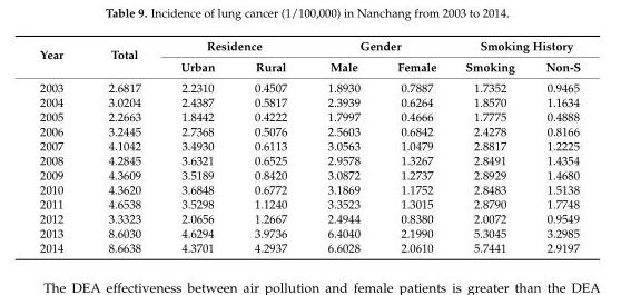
<table><thead><tr><td rowspan="2">Year</td><td rowspan="2">Total</td><td colspan="2">Residence</td><td colspan="2">Gender</td><td colspan="2">Smoking History</td></tr><tr><td>Urban</td><td>Rural</td><td>Male</td><td>Female</td><td>Smoking</td><td>Non-S</td></tr></thead><tbody><tr><td>2003</td><td>2.6817</td><td>2.2310</td><td>0.4507</td><td>1.8930</td><td>0.7887</td><td>1.7352</td><td>0.9465</td></tr><tr><td>2004</td><td>3.0204</td><td>2.4387</td><td>0.5817</td><td>2.3939</td><td>0.6264</td><td>1.8570</td><td>1.1634</td></tr><tr><td>2005</td><td>2.2663</td><td>1.8442</td><td>0.4222</td><td>1.7997</td><td>0.4666</td><td>1.7775</td><td>0.4888</td></tr><tr><td>2006</td><td>3.2445</td><td>2.7368</td><td>0.5076</td><td>2.5603</td><td>0.6842</td><td>2.4278</td><td>0.8166</td></tr><tr><td>2007</td><td>4.1042</td><td>3.4930</td><td>0.6113</td><td>3.0563</td><td>1.0479</td><td>2.8817</td><td>1.2225</td></tr><tr><td>2008</td><td>4.2845</td><td>3.6321</td><td>0.6525</td><td>2.9578</td><td>1.3267</td><td>2.8491</td><td>1.4354</td></tr><tr><td>2009</td><td>4.3609</td><td>3.5189</td><td>0.8420</td><td>3.0872</td><td>1.2737</td><td>2.8929</td><td>1.4680</td></tr><tr><td>2010</td><td>4.3620</td><td>3.6848</td><td>0.6772</td><td>3.1869</td><td>1.1752</td><td>2.8483</td><td>1.5138</td></tr><tr><td>2011</td><td>4.6538</td><td>3.5298</td><td>1.1240</td><td>3.3523</td><td>1.3015</td><td>2.8790</td><td>1.7748</td></tr><tr><td>2012</td><td>3.3323</td><td>2.0656</td><td>1.2667</td><td>2.4944</td><td>0.8380</td><td>2.0072</td><td>0.9549</td></tr><tr><td>2013</td><td>8.6030</td><td>4.6294</td><td>3.9736</td><td>6.4040</td><td>2.1990</td><td>5.3045</td><td>3.2985</td></tr><tr><td>2014</td><td>8.6638</td><td>4.3701</td><td>4.2937</td><td>6.6028</td><td>2.0610</td><td>5.7441</td><td>2.9197</td></tr></tbody></table>